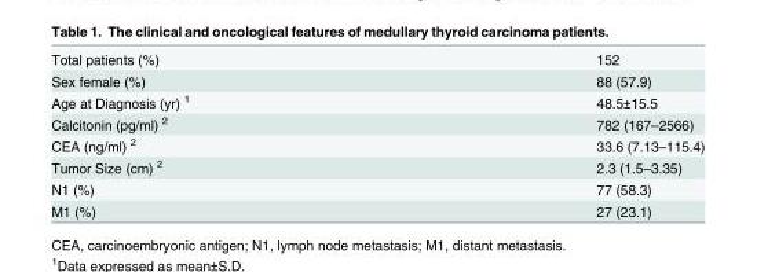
<table><tbody><tr><td>Total patients (%)</td><td>152</td></tr><tr><td>Sex female (%)</td><td>88 (57.9)</td></tr><tr><td>Age at Diagnosis (yr) <sup>1</sup></td><td>48.5±15.5</td></tr><tr><td>Calcitonin (pg/ml) <sup>2</sup></td><td>782 (167–2566)</td></tr><tr><td>CEA (ng/ml) <sup>2</sup></td><td>33.6 (7.13–115.4)</td></tr><tr><td>Tumor Size (cm) <sup>2</sup></td><td>2.3 (1.5–3.35)</td></tr><tr><td>N1 (%)</td><td>77 (58.3)</td></tr><tr><td>M1 (%)</td><td>27 (23.1)</td></tr></tbody></table>